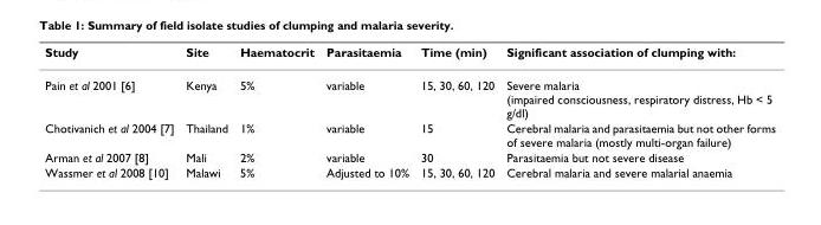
<table><thead><tr><td>Study</td><td>Site</td><td>Haematocrit</td><td>Parasitaemia</td><td>Time (min)</td><td>Significant association of clumping with:</td></tr></thead><tbody><tr><td>Pain et al 2001 [6]</td><td>Kenya</td><td>5%</td><td>variable</td><td>15, 30, 60, 120</td><td>Severe malaria (impaired consciousness, respiratory distress, Hb &lt; 5 g/dl)</td></tr><tr><td>Chotivanich et al 2004 [7]</td><td>Thailand</td><td>1%</td><td>variable</td><td>15</td><td>Cerebral malaria and parasitaemia but not other forms of severe malaria (mostly multi-organ failure)</td></tr><tr><td>Arman et al 2007 [8]</td><td>Mali</td><td>2%</td><td>variable</td><td>30</td><td>Parasitaemia but not severe disease</td></tr><tr><td>Wassmer et al 2008 [10]</td><td>Malawi</td><td>5%</td><td>Adjusted to 10%</td><td>15, 30, 60, 120</td><td>Cerebral malaria and severe malarial anaemia</td></tr></tbody></table>